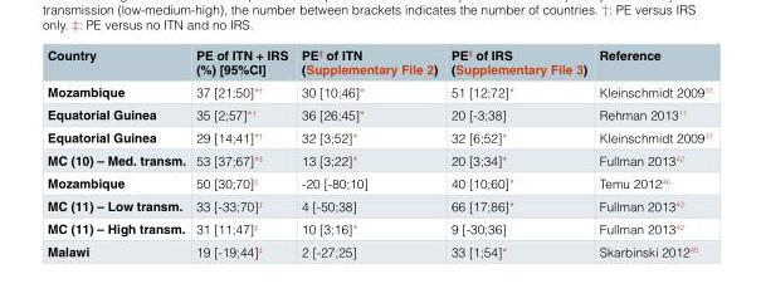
<table><thead><tr><td>Country</td><td>PE of ITN + IRS (%) [95%CI]</td><td>PE<sup>‡</sup> of ITN (Supplementary File 2)</td><td>PE<sup>‡</sup> of IRS (Supplementary File 3)</td><td>Reference</td></tr></thead><tbody><tr><td>Mozambique</td><td>37 [21;50]*<sup>†</sup></td><td>30 [10;46]*</td><td>51 [12;72]*</td><td>Kleinschmidt 2009<sup>31</sup></td></tr><tr><td>Equatorial Guinea</td><td>35 [2;57]*<sup>†</sup></td><td>36 [26;45]*</td><td>20 [-3;38]</td><td>Rehman 2013<sup>11</sup></td></tr><tr><td>Equatorial Guinea</td><td>29 [14;41]*<sup>†</sup></td><td>32 [3;52]*</td><td>32 [6;52]*</td><td>Kleinschmidt 2009<sup>31</sup></td></tr><tr><td>MC (10) – Med. transm.</td><td>53 [37;67]*<sup>‡</sup></td><td>13 [3;22]*</td><td>20 [3;34]*</td><td>Fullman 2013<sup>42</sup></td></tr><tr><td>Mozambique</td><td>50 [30;70]<sup>‡</sup></td><td>-20 [-80;10]</td><td>40 [10;60]*</td><td>Temu 2012<sup>46</sup></td></tr><tr><td>MC (11) – Low transm.</td><td>33 [-33;70]<sup>‡</sup></td><td>4 [-50;38]</td><td>66 [17;86]*</td><td>Fullman 2013<sup>42</sup></td></tr><tr><td>MC (11) – High transm.</td><td>31 [11;47]<sup>‡</sup></td><td>10 [3;16]*</td><td>9 [-30;36]</td><td>Fullman 2013<sup>42</sup></td></tr><tr><td>Malawi</td><td>19 [-19;44]<sup>‡</sup></td><td>2 [-27;25]</td><td>33 [1;54]*</td><td>Skarbinski 2012<sup>45</sup></td></tr></tbody></table>